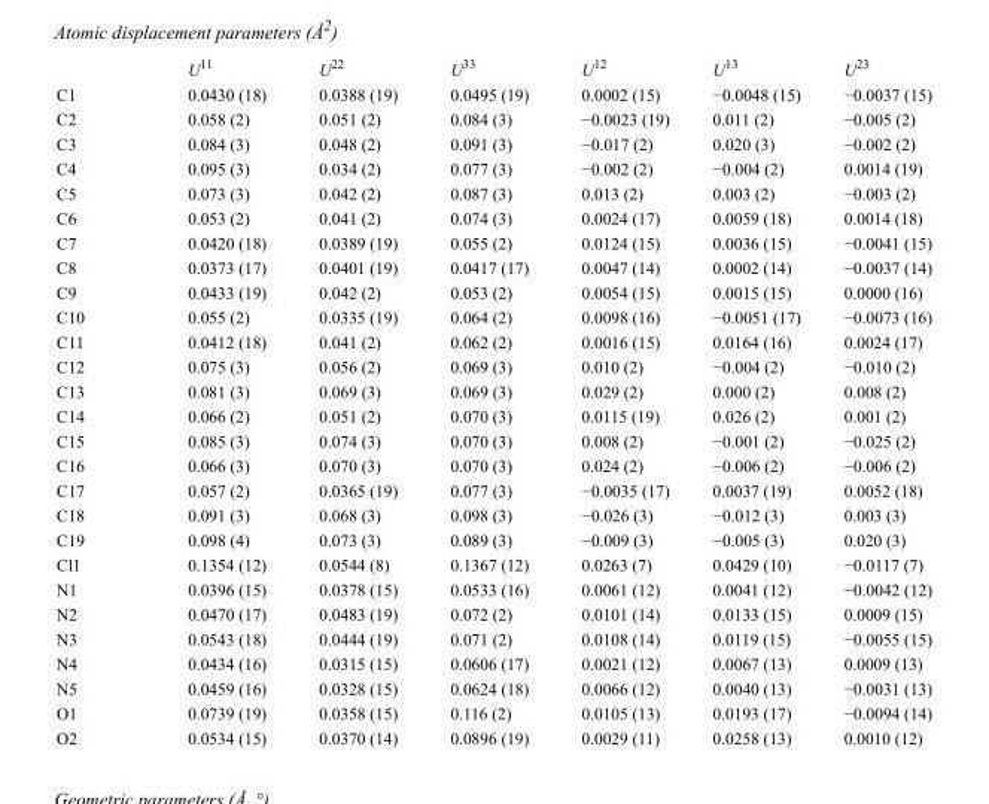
<table><thead><tr><td></td><td>U<sup>11</sup></td><td>U<sup>22</sup></td><td>U<sup>33</sup></td><td>U<sup>12</sup></td><td>U<sup>13</sup></td><td>U<sup>23</sup></td></tr></thead><tbody><tr><td>C1</td><td>0.0430 (18)</td><td>0.0388 (19)</td><td>0.0495 (19)</td><td>0.0002 (15)</td><td>−0.0048 (15)</td><td>−0.0037 (15)</td></tr><tr><td>C2</td><td>0.058 (2)</td><td>0.051 (2)</td><td>0.084 (3)</td><td>−0.0023 (19)</td><td>0.011 (2)</td><td>−0.005 (2)</td></tr><tr><td>C3</td><td>0.084 (3)</td><td>0.048 (2)</td><td>0.091 (3)</td><td>−0.017 (2)</td><td>0.020 (3)</td><td>−0.002 (2)</td></tr><tr><td>C4</td><td>0.095 (3)</td><td>0.034 (2)</td><td>0.077 (3)</td><td>−0.002 (2)</td><td>−0.004 (2)</td><td>0.0014 (19)</td></tr><tr><td>C5</td><td>0.073 (3)</td><td>0.042 (2)</td><td>0.087 (3)</td><td>0.013 (2)</td><td>0.003 (2)</td><td>−0.003 (2)</td></tr><tr><td>C6</td><td>0.053 (2)</td><td>0.041 (2)</td><td>0.074 (3)</td><td>0.0024 (17)</td><td>0.0059 (18)</td><td>0.0014 (18)</td></tr><tr><td>C7</td><td>0.0420 (18)</td><td>0.0389 (19)</td><td>0.055 (2)</td><td>0.0124 (15)</td><td>0.0036 (15)</td><td>−0.0041 (15)</td></tr><tr><td>C8</td><td>0.0373 (17)</td><td>0.0401 (19)</td><td>0.0417 (17)</td><td>0.0047 (14)</td><td>0.0002 (14)</td><td>−0.0037 (14)</td></tr><tr><td>C9</td><td>0.0433 (19)</td><td>0.042 (2)</td><td>0.053 (2)</td><td>0.0054 (15)</td><td>0.0015 (15)</td><td>0.0000 (16)</td></tr><tr><td>C10</td><td>0.055 (2)</td><td>0.0335 (19)</td><td>0.064 (2)</td><td>0.0098 (16)</td><td>−0.0051 (17)</td><td>−0.0073 (16)</td></tr><tr><td>C11</td><td>0.0412 (18)</td><td>0.041 (2)</td><td>0.062 (2)</td><td>0.0016 (15)</td><td>0.0164 (16)</td><td>0.0024 (17)</td></tr><tr><td>C12</td><td>0.075 (3)</td><td>0.056 (2)</td><td>0.069 (3)</td><td>0.010 (2)</td><td>−0.004 (2)</td><td>−0.010 (2)</td></tr><tr><td>C13</td><td>0.081 (3)</td><td>0.069 (3)</td><td>0.069 (3)</td><td>0.029 (2)</td><td>0.000 (2)</td><td>0.008 (2)</td></tr><tr><td>C14</td><td>0.066 (2)</td><td>0.051 (2)</td><td>0.070 (3)</td><td>0.0115 (19)</td><td>0.026 (2)</td><td>0.001 (2)</td></tr><tr><td>C15</td><td>0.085 (3)</td><td>0.074 (3)</td><td>0.070 (3)</td><td>0.008 (2)</td><td>−0.001 (2)</td><td>−0.025 (2)</td></tr><tr><td>C16</td><td>0.066 (3)</td><td>0.070 (3)</td><td>0.070 (3)</td><td>0.024 (2)</td><td>−0.006 (2)</td><td>−0.006 (2)</td></tr><tr><td>C17</td><td>0.057 (2)</td><td>0.0365 (19)</td><td>0.077 (3)</td><td>−0.0035 (17)</td><td>0.0037 (19)</td><td>0.0052 (18)</td></tr><tr><td>C18</td><td>0.091 (3)</td><td>0.068 (3)</td><td>0.098 (3)</td><td>−0.026 (3)</td><td>−0.012 (3)</td><td>0.003 (3)</td></tr><tr><td>C19</td><td>0.098 (4)</td><td>0.073 (3)</td><td>0.089 (3)</td><td>−0.009 (3)</td><td>−0.005 (3)</td><td>0.020 (3)</td></tr><tr><td>Cl1</td><td>0.1354 (12)</td><td>0.0544 (8)</td><td>0.1367 (12)</td><td>0.0263 (7)</td><td>0.0429 (10)</td><td>−0.0117 (7)</td></tr><tr><td>N1</td><td>0.0396 (15)</td><td>0.0378 (15)</td><td>0.0533 (16)</td><td>0.0061 (12)</td><td>0.0041 (12)</td><td>−0.0042 (12)</td></tr><tr><td>N2</td><td>0.0470 (17)</td><td>0.0483 (19)</td><td>0.072 (2)</td><td>0.0101 (14)</td><td>0.0133 (15)</td><td>0.0009 (15)</td></tr><tr><td>N3</td><td>0.0543 (18)</td><td>0.0444 (19)</td><td>0.071 (2)</td><td>0.0108 (14)</td><td>0.0119 (15)</td><td>−0.0055 (15)</td></tr><tr><td>N4</td><td>0.0434 (16)</td><td>0.0315 (15)</td><td>0.0606 (17)</td><td>0.0021 (12)</td><td>0.0067 (13)</td><td>0.0009 (13)</td></tr><tr><td>N5</td><td>0.0459 (16)</td><td>0.0328 (15)</td><td>0.0624 (18)</td><td>0.0066 (12)</td><td>0.0040 (13)</td><td>−0.0031 (13)</td></tr><tr><td>O1</td><td>0.0739 (19)</td><td>0.0358 (15)</td><td>0.116 (2)</td><td>0.0105 (13)</td><td>0.0193 (17)</td><td>−0.0094 (14)</td></tr><tr><td>O2</td><td>0.0534 (15)</td><td>0.0370 (14)</td><td>0.0896 (19)</td><td>0.0029 (11)</td><td>0.0258 (13)</td><td>0.0010 (12)</td></tr></tbody></table>